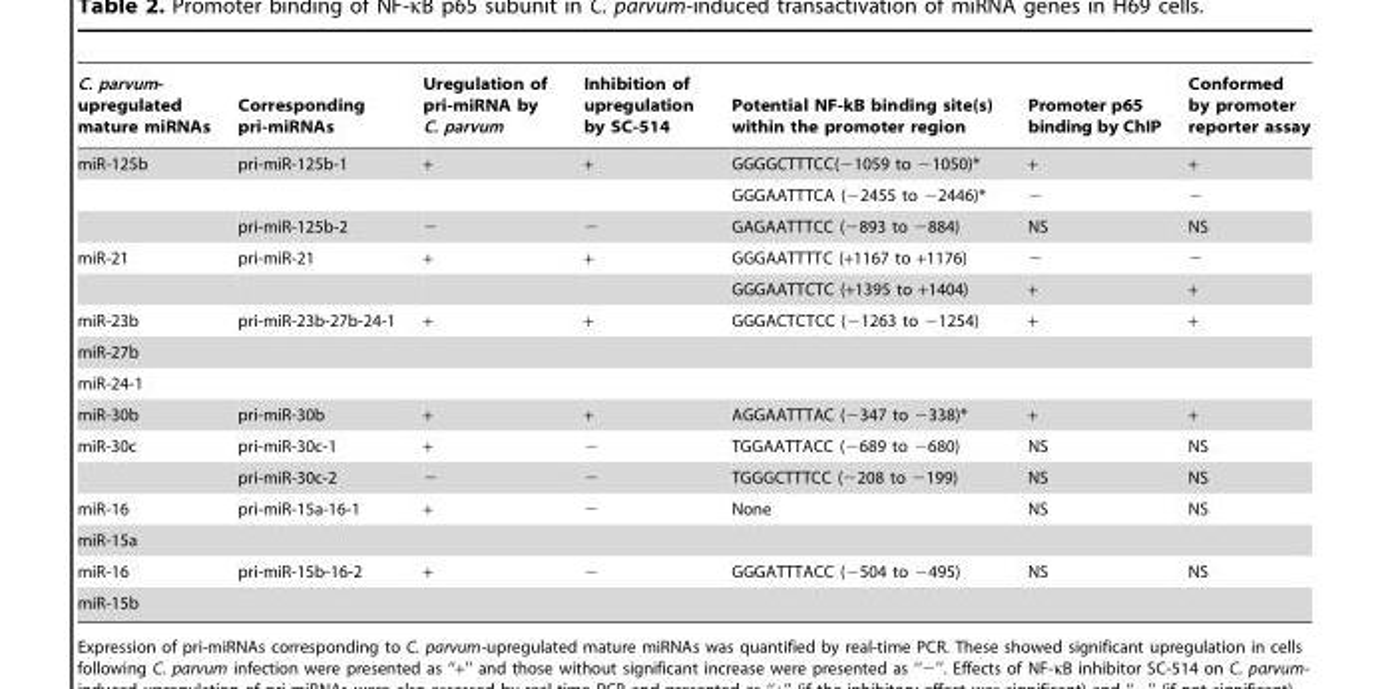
<table><thead><tr><td>C. parvum- upregulated mature miRNAs</td><td>Corresponding pri-miRNAs</td><td>Uregulation of pri-miRNA by C. parvum</td><td>Inhibition of upregulation by SC-514</td><td>Potential NF-kB binding site(s) within the promoter region</td><td>Promoter p65 binding by ChIP</td><td>Conformed by promoter reporter assay</td></tr></thead><tbody><tr><td rowspan="3">miR-125b</td><td>pri-miR-125b-1</td><td>+</td><td>+</td><td>GGGGCTTTCC(−1059 to −1050)*</td><td>+</td><td>+</td></tr><tr><td></td><td></td><td></td><td>GGGAATTTCA (−2455 to −2446)*</td><td>−</td><td>−</td></tr><tr><td>pri-miR-125b-2</td><td>−</td><td>−</td><td>GAGAATTTCC (−893 to −884)</td><td>NS</td><td>NS</td></tr><tr><td rowspan="2">miR-21</td><td>pri-miR-21</td><td>+</td><td>+</td><td>GGGAATTTTC (+1167 to +1176)</td><td>−</td><td>−</td></tr><tr><td></td><td></td><td></td><td>GGGAATTCTC (+1395 to +1404)</td><td>+</td><td>+</td></tr><tr><td>miR-23b</td><td>pri-miR-23b-27b-24-1</td><td>+</td><td>+</td><td>GGGACTCTCC (−1263 to −1254)</td><td>+</td><td>+</td></tr><tr><td colspan="7">miR-27b</td></tr><tr><td colspan="7">miR-24-1</td></tr><tr><td>miR-30b</td><td>pri-miR-30b</td><td>+</td><td>+</td><td>AGGAATTTAC (−347 to −338)*</td><td>+</td><td>+</td></tr><tr><td rowspan="2">miR-30c</td><td>pri-miR-30c-1</td><td>+</td><td>−</td><td>TGGAATTACC (−689 to −680)</td><td>NS</td><td>NS</td></tr><tr><td>pri-miR-30c-2</td><td>−</td><td>−</td><td>TGGGCTTTCC (−208 to −199)</td><td>NS</td><td>NS</td></tr><tr><td>miR-16</td><td>pri-miR-15a-16-1</td><td>+</td><td>−</td><td>None</td><td>NS</td><td>NS</td></tr><tr><td colspan="7">miR-15a</td></tr><tr><td>miR-16</td><td>pri-miR-15b-16-2</td><td>+</td><td>−</td><td>GGGATTTACC (−504 to −495)</td><td>NS</td><td>NS</td></tr><tr><td colspan="7">miR-15b</td></tr></tbody></table>